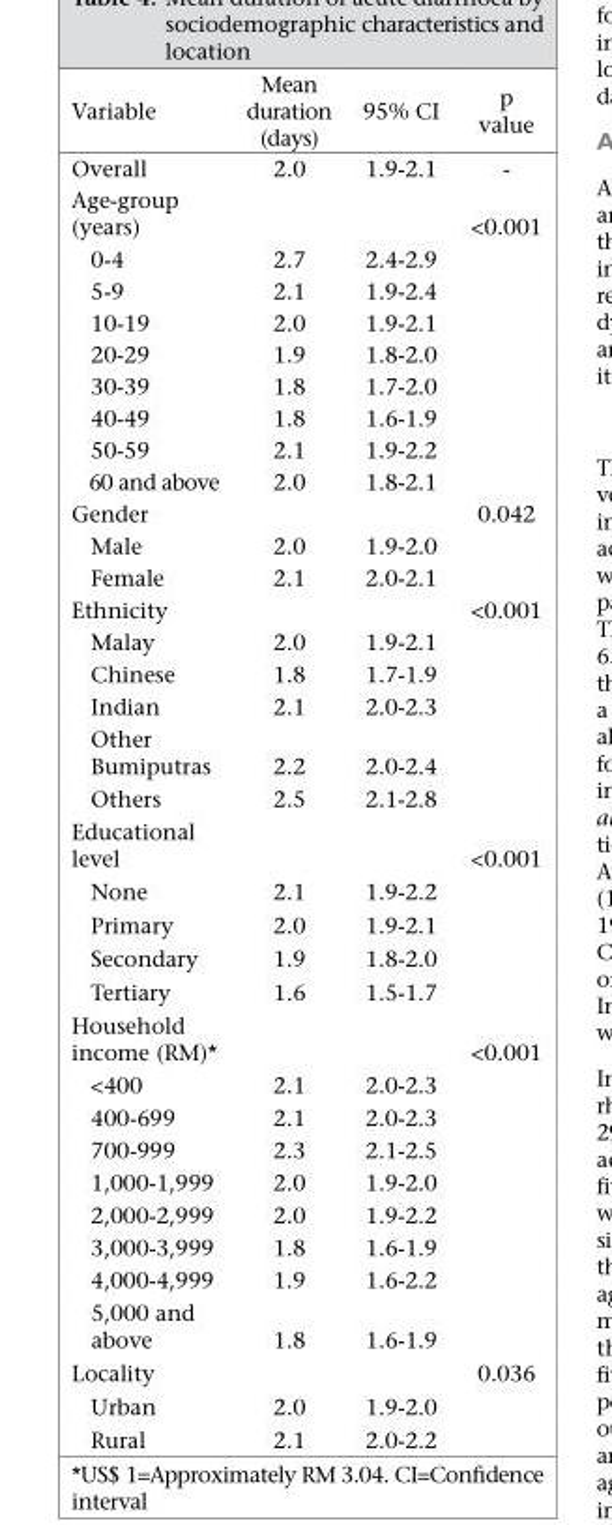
<table><thead><tr><td>Variable</td><td>Mean duration (days)</td><td>95% CI</td><td>p value</td></tr></thead><tbody><tr><td>Overall</td><td>2.0</td><td>1.9-2.1</td><td>-</td></tr><tr><td>Age-group (years)</td><td></td><td></td><td>&lt;0.001</td></tr><tr><td>0-4</td><td>2.7</td><td>2.4-2.9</td><td></td></tr><tr><td>5-9</td><td>2.1</td><td>1.9-2.4</td><td></td></tr><tr><td>10-19</td><td>2.0</td><td>1.9-2.1</td><td></td></tr><tr><td>20-29</td><td>1.9</td><td>1.8-2.0</td><td></td></tr><tr><td>30-39</td><td>1.8</td><td>1.7-2.0</td><td></td></tr><tr><td>40-49</td><td>1.8</td><td>1.6-1.9</td><td></td></tr><tr><td>50-59</td><td>2.1</td><td>1.9-2.2</td><td></td></tr><tr><td>60 and above</td><td>2.0</td><td>1.8-2.1</td><td></td></tr><tr><td>Gender</td><td></td><td></td><td>0.042</td></tr><tr><td>Male</td><td>2.0</td><td>1.9-2.0</td><td></td></tr><tr><td>Female</td><td>2.1</td><td>2.0-2.1</td><td></td></tr><tr><td>Ethnicity</td><td></td><td></td><td>&lt;0.001</td></tr><tr><td>Malay</td><td>2.0</td><td>1.9-2.1</td><td></td></tr><tr><td>Chinese</td><td>1.8</td><td>1.7-1.9</td><td></td></tr><tr><td>Indian</td><td>2.1</td><td>2.0-2.3</td><td></td></tr><tr><td>Other Bumiputras</td><td>2.2</td><td>2.0-2.4</td><td></td></tr><tr><td>Others</td><td>2.5</td><td>2.1-2.8</td><td></td></tr><tr><td>Educational level</td><td></td><td></td><td>&lt;0.001</td></tr><tr><td>None</td><td>2.1</td><td>1.9-2.2</td><td></td></tr><tr><td>Primary</td><td>2.0</td><td>1.9-2.1</td><td></td></tr><tr><td>Secondary</td><td>1.9</td><td>1.8-2.0</td><td></td></tr><tr><td>Tertiary</td><td>1.6</td><td>1.5-1.7</td><td></td></tr><tr><td>Household income (RM)*</td><td></td><td></td><td>&lt;0.001</td></tr><tr><td>&lt;400</td><td>2.1</td><td>2.0-2.3</td><td></td></tr><tr><td>400-699</td><td>2.1</td><td>2.0-2.3</td><td></td></tr><tr><td>700-999</td><td>2.3</td><td>2.1-2.5</td><td></td></tr><tr><td>1,000-1,999</td><td>2.0</td><td>1.9-2.0</td><td></td></tr><tr><td>2,000-2,999</td><td>2.0</td><td>1.9-2.2</td><td></td></tr><tr><td>3,000-3,999</td><td>1.8</td><td>1.6-1.9</td><td></td></tr><tr><td>4,000-4,999</td><td>1.9</td><td>1.6-2.2</td><td></td></tr><tr><td>5,000 and above</td><td>1.8</td><td>1.6-1.9</td><td></td></tr><tr><td>Locality</td><td></td><td></td><td>0.036</td></tr><tr><td>Urban</td><td>2.0</td><td>1.9-2.0</td><td></td></tr><tr><td>Rural</td><td>2.1</td><td>2.0-2.2</td><td></td></tr></tbody></table>